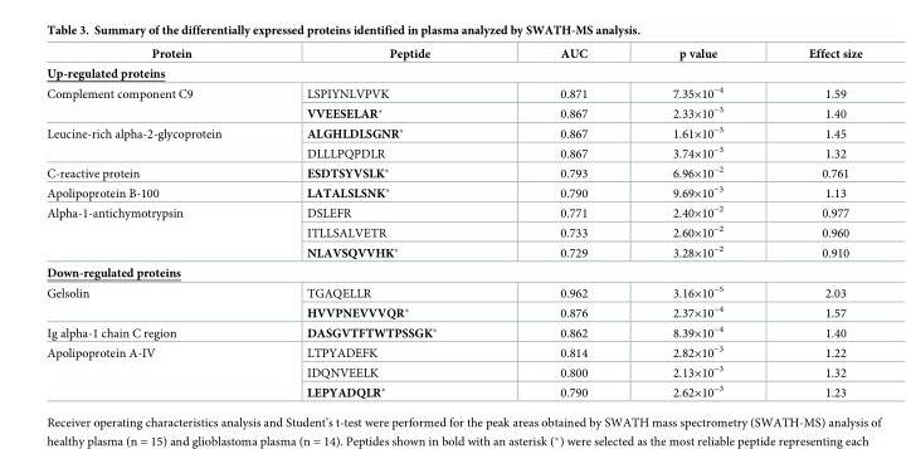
<table><thead><tr><td>Protein</td><td>Peptide</td><td>AUC</td><td>p value</td><td>Effect size</td></tr></thead><tbody><tr><td colspan="5">Up-regulated proteins</td></tr><tr><td rowspan="2">Complement component C9</td><td>LSPIYNLVPVK</td><td>0.871</td><td>7.35×10<sup>−4</sup></td><td>1.59</td></tr><tr><td>VVEESELAR*</td><td>0.867</td><td>2.33×10<sup>−3</sup></td><td>1.40</td></tr><tr><td rowspan="2">Leucine-rich alpha-2-glycoprotein</td><td>ALGHLDLSGNR*</td><td>0.867</td><td>1.61×10<sup>−3</sup></td><td>1.45</td></tr><tr><td>DLLLPQPDLR</td><td>0.867</td><td>3.74×10<sup>−3</sup></td><td>1.32</td></tr><tr><td>C-reactive protein</td><td>ESDTSYVSLK*</td><td>0.793</td><td>6.96×10<sup>−2</sup></td><td>0.761</td></tr><tr><td>Apolipoprotein B-100</td><td>LATALSLSNK*</td><td>0.790</td><td>9.69×10<sup>−3</sup></td><td>1.13</td></tr><tr><td rowspan="3">Alpha-1-antichymotrypsin</td><td>DSLEFR</td><td>0.771</td><td>2.40×10<sup>−2</sup></td><td>0.977</td></tr><tr><td>ITLLSALVETR</td><td>0.733</td><td>2.60×10<sup>−2</sup></td><td>0.960</td></tr><tr><td>NLAVSQVVHK*</td><td>0.729</td><td>3.28×10<sup>−2</sup></td><td>0.910</td></tr><tr><td colspan="5">Down-regulated proteins</td></tr><tr><td rowspan="2">Gelsolin</td><td>TGAQELLR</td><td>0.962</td><td>3.16×10<sup>−5</sup></td><td>2.03</td></tr><tr><td>HVVPNEVVVQR*</td><td>0.876</td><td>2.37×10<sup>−4</sup></td><td>1.57</td></tr><tr><td>Ig alpha-1 chain C region</td><td>DASGVTFTWTPSSGK*</td><td>0.862</td><td>8.39×10<sup>−4</sup></td><td>1.40</td></tr><tr><td rowspan="3">Apolipoprotein A-IV</td><td>LTPYADEFK</td><td>0.814</td><td>2.82×10<sup>−3</sup></td><td>1.22</td></tr><tr><td>IDQNVEELK</td><td>0.800</td><td>2.13×10<sup>−3</sup></td><td>1.32</td></tr><tr><td>LEPYADQLR*</td><td>0.790</td><td>2.62×10<sup>−3</sup></td><td>1.23</td></tr></tbody></table>